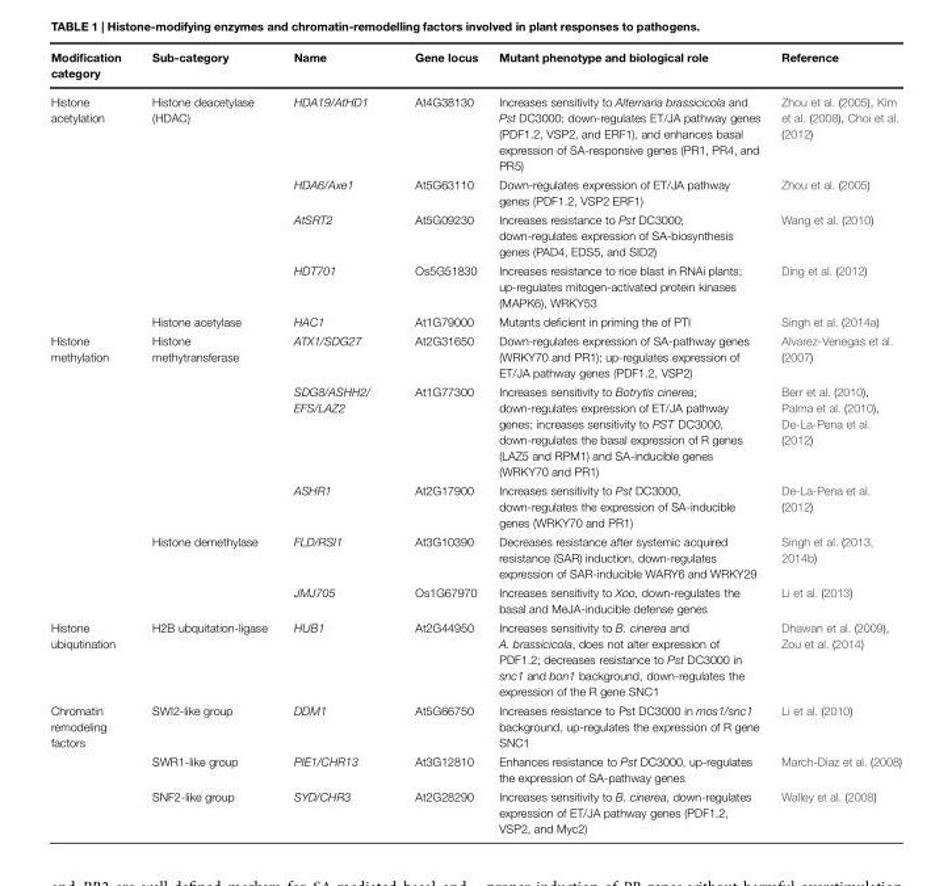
<table><thead><tr><td>Modification category</td><td>Sub-category</td><td>Name</td><td>Gene locus</td><td>Mutant phenotype and biological role</td><td>Reference</td></tr></thead><tbody><tr><td rowspan="5">Histone acetylation</td><td>Histone deacetylase (HDAC)</td><td>HDA19/AtHD1</td><td>At4G38130</td><td>Increases sensitivity to Alternaria brassicicola and Pst DC3000; down-regulates ET/JA pathway genes (PDF1.2, VSP2, and ERF1), and enhances basal expression of SA-responsive genes (PR1, PR4, and PR5)</td><td>Zhou et al. (2005), Kim et al. (2008), Choi et al. (2012)</td></tr><tr><td></td><td>HDA6/Axe1</td><td>At5G63110</td><td>Down-regulates expression of ET/JA pathway genes (PDF1.2, VSP2 ERF1)</td><td>Zhou et al. (2005)</td></tr><tr><td></td><td>AtSRT2</td><td>At5G09230</td><td>Increases resistance to Pst DC3000; down-regulates expression of SA-biosynthesis genes (PAD4, EDS5, and SID2)</td><td>Wang et al. (2010)</td></tr><tr><td></td><td>HDT701</td><td>Os5G51830</td><td>Increases resistance to rice blast in RNAi plants; up-regulates mitogen-activated protein kinases (MAPK6), WRKY53</td><td>Ding et al. (2012)</td></tr><tr><td>Histone acetylase</td><td>HAC1</td><td>At1G79000</td><td>Mutants deficient in priming the of PTI</td><td>Singh et al. (2014a)</td></tr><tr><td rowspan="5">Histone methylation</td><td>Histone methytransferase</td><td>ATX1/SDG27</td><td>At2G31650</td><td>Down-regulates expression of SA-pathway genes (WRKY70 and PR1); up-regulates expression of ET/JA pathway genes (PDF1.2, VSP2)</td><td>Alvarez-Venegas et al. (2007)</td></tr><tr><td></td><td>SDG8/ASHH2/ EFS/LAZ2</td><td>At1G77300</td><td>Increases sensitivity to Botrytis cinerea; down-regulates expression of ET/JA pathway genes; increases sensitivity to PST DC3000, down-regulates the basal expression of R genes (LAZ5 and RPM1) and SA-inducible genes (WRKY70 and PR1)</td><td>Berr et al. (2010), Palma et al. (2010), De-La-Pena et al. (2012)</td></tr><tr><td></td><td>ASHR1</td><td>At2G17900</td><td>Increases sensitivity to Pst DC3000, down-regulates the expression of SA-inducible genes (WRKY70 and PR1)</td><td>De-La-Pena et al. (2012)</td></tr><tr><td>Histone demethylase</td><td>FLD/RSI1</td><td>At3G10390</td><td>Decreases resistance after systemic acquired resistance (SAR) induction, down-regulates expression of SAR-inducible WARY6 and WRKY29</td><td>Singh et al. (2013, 2014b)</td></tr><tr><td></td><td>JMJ705</td><td>Os1G67970</td><td>Increases sensitivity to Xoo, down-regulates the basal and MeJA-inducible defense genes</td><td>Li et al. (2013)</td></tr><tr><td>Histone ubiqutination</td><td>H2B ubquitation-ligase</td><td>HUB1</td><td>At2G44950</td><td>Increases sensitivity to B. cinerea and A. brassicicola, does not alter expression of PDF1.2; decreases resistance to Pst DC3000 in snc1 and bon1 background, down-regulates the expression of the R gene SNC1</td><td>Dhawan et al. (2009), Zou et al. (2014)</td></tr><tr><td rowspan="3">Chromatin remodeling factors</td><td>SWI2-like group</td><td>DDM1</td><td>At5G66750</td><td>Increases resistance to Pst DC3000 in mos1/snc1 background, up-regulates the expression of R gene SNC1</td><td>Li et al. (2010)</td></tr><tr><td>SWR1-like group</td><td>PIE1/CHR13</td><td>At3G12810</td><td>Enhances resistance to Pst DC3000, up-regulates the expression of SA-pathway genes</td><td>March-Diaz et al. (2008)</td></tr><tr><td>SNF2-like group</td><td>SYD/CHR3</td><td>At2G28290</td><td>Increases sensitivity to B. cinerea, down-regulates expression of ET/JA pathway genes (PDF1.2, VSP2, and Myc2)</td><td>Walley et al. (2008)</td></tr></tbody></table>